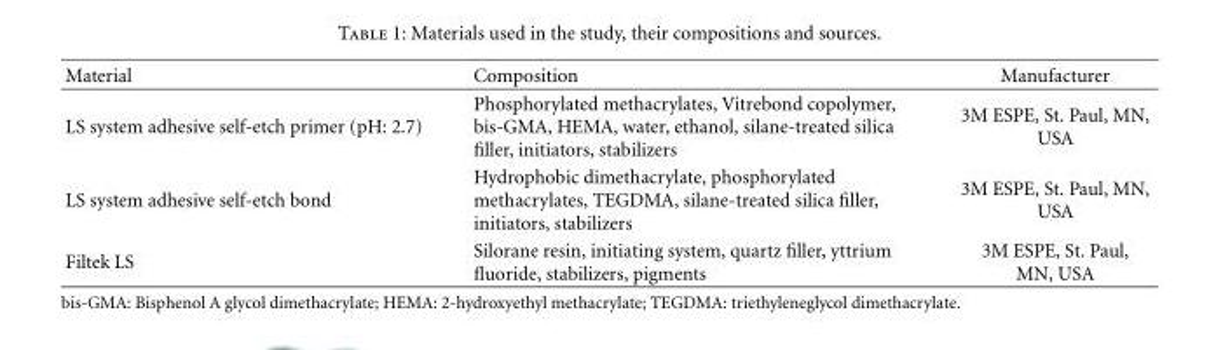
<table><thead><tr><td>Material</td><td>Composition</td><td>Manufacturer</td></tr></thead><tbody><tr><td>LS system adhesive self-etch primer (pH: 2.7)</td><td>Phosphorylated methacrylates, Vitrebond copolymer, bis-GMA, HEMA, water, ethanol, silane-treated silica filler, initiators, stabilizers</td><td>3M ESPE, St. Paul, MN, USA</td></tr><tr><td>LS system adhesive self-etch bond</td><td>Hydrophobic dimethacrylate, phosphorylated methacrylates, TEGDMA, silane-treated silica filler, initiators, stabilizers</td><td>3M ESPE, St. Paul, MN, USA</td></tr><tr><td>Filtek LS</td><td>Silorane resin, initiating system, quartz filler, yttrium fluoride, stabilizers, pigments</td><td>3M ESPE, St. Paul, MN, USA</td></tr></tbody></table>